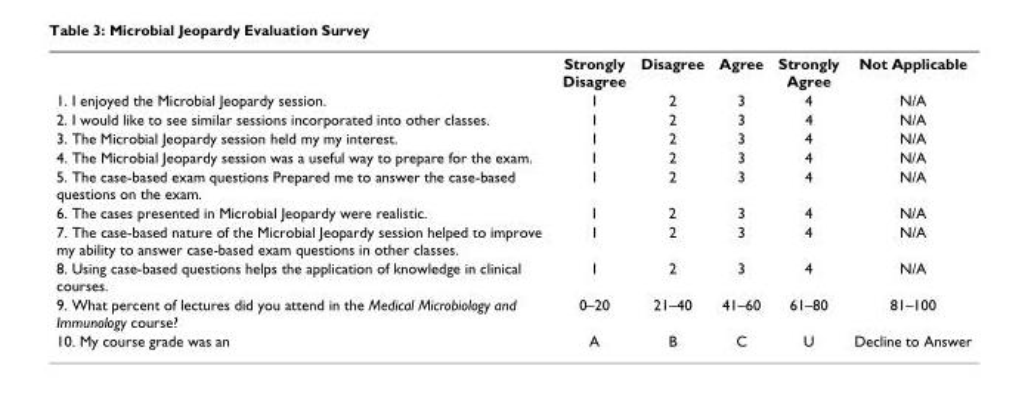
<table><thead><tr><td></td><td>Strongly Disagree</td><td>Disagree</td><td>Agree</td><td>Strongly Agree</td><td>Not Applicable</td></tr></thead><tbody><tr><td>1. I enjoyed the Microbial Jeopardy session.</td><td>1</td><td>2</td><td>3</td><td>4</td><td>N/A</td></tr><tr><td>2. I would like to see similar sessions incorporated into other classes.</td><td>1</td><td>2</td><td>3</td><td>4</td><td>N/A</td></tr><tr><td>3. The Microbial Jeopardy session held my my interest.</td><td>1</td><td>2</td><td>3</td><td>4</td><td>N/A</td></tr><tr><td>4. The Microbial Jeopardy session was a useful way to prepare for the exam.</td><td>1</td><td>2</td><td>3</td><td>4</td><td>N/A</td></tr><tr><td>5. The case-based exam questions Prepared me to answer the case-based questions on the exam.</td><td>1</td><td>2</td><td>3</td><td>4</td><td>N/A</td></tr><tr><td>6. The cases presented in Microbial Jeopardy were realistic.</td><td>1</td><td>2</td><td>3</td><td>4</td><td>N/A</td></tr><tr><td>7. The case-based nature of the Microbial Jeopardy session helped to improve my ability to answer case-based exam questions in other classes.</td><td>1</td><td>2</td><td>3</td><td>4</td><td>N/A</td></tr><tr><td>8. Using case-based questions helps the application of knowledge in clinical courses.</td><td>1</td><td>2</td><td>3</td><td>4</td><td>N/A</td></tr><tr><td>9. What percent of lectures did you attend in the Medical Microbiology and Immunology course?</td><td>0–20</td><td>21–40</td><td>41–60</td><td>61–80</td><td>81–100</td></tr><tr><td>10. My course grade was an</td><td>A</td><td>B</td><td>C</td><td>U</td><td>Decline to Answer</td></tr></tbody></table>